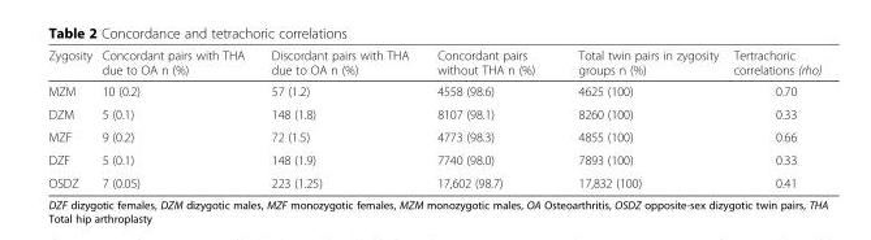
<table><thead><tr><td>Zygosity</td><td>Concordant pairs with THA due to OA n (%)</td><td>Discordant pairs with THA due to OA n (%)</td><td>Concordant pairs without THA n (%)</td><td>Total twin pairs in zygosity groups n (%)</td><td>Tertrachoric correlations (rho)</td></tr></thead><tbody><tr><td>MZM</td><td>10 (0.2)</td><td>57 (1.2)</td><td>4558 (98.6)</td><td>4625 (100)</td><td>0.70</td></tr><tr><td>DZM</td><td>5 (0.1)</td><td>148 (1.8)</td><td>8107 (98.1)</td><td>8260 (100)</td><td>0.33</td></tr><tr><td>MZF</td><td>9 (0.2)</td><td>72 (1.5)</td><td>4773 (98.3)</td><td>4855 (100)</td><td>0.66</td></tr><tr><td>DZF</td><td>5 (0.1)</td><td>148 (1.9)</td><td>7740 (98.0)</td><td>7893 (100)</td><td>0.33</td></tr><tr><td>OSDZ</td><td>7 (0.05)</td><td>223 (1.25)</td><td>17,602 (98.7)</td><td>17,832 (100)</td><td>0.41</td></tr></tbody></table>